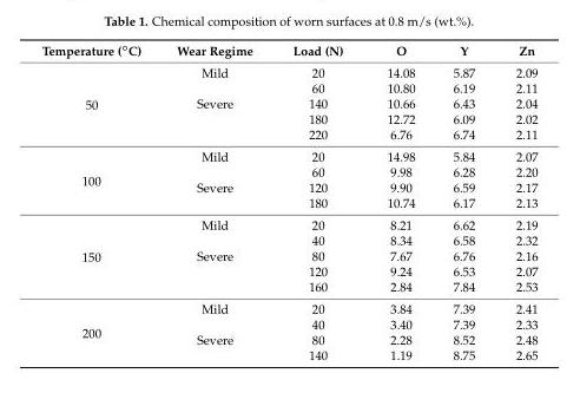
<table><thead><tr><td>Temperature (◦C)</td><td>Wear Regime</td><td>Load (N)</td><td>O</td><td>Y</td><td>Zn</td></tr></thead><tbody><tr><td rowspan="5">50</td><td>Mild</td><td>20</td><td>14.08</td><td>5.87</td><td>2.09</td></tr><tr><td></td><td>60</td><td>10.80</td><td>6.19</td><td>2.11</td></tr><tr><td>Severe</td><td>140</td><td>10.66</td><td>6.43</td><td>2.04</td></tr><tr><td></td><td>180</td><td>12.72</td><td>6.09</td><td>2.02</td></tr><tr><td></td><td>220</td><td>6.76</td><td>6.74</td><td>2.11</td></tr><tr><td rowspan="4">100</td><td>Mild</td><td>20</td><td>14.98</td><td>5.84</td><td>2.07</td></tr><tr><td></td><td>60</td><td>9.98</td><td>6.28</td><td>2.20</td></tr><tr><td>Severe</td><td>120</td><td>9.90</td><td>6.59</td><td>2.17</td></tr><tr><td></td><td>180</td><td>10.74</td><td>6.17</td><td>2.13</td></tr><tr><td rowspan="5">150</td><td>Mild</td><td>20</td><td>8.21</td><td>6.62</td><td>2.19</td></tr><tr><td></td><td>40</td><td>8.34</td><td>6.58</td><td>2.32</td></tr><tr><td>Severe</td><td>80</td><td>7.67</td><td>6.76</td><td>2.16</td></tr><tr><td></td><td>120</td><td>9.24</td><td>6.53</td><td>2.07</td></tr><tr><td></td><td>160</td><td>2.84</td><td>7.84</td><td>2.53</td></tr><tr><td rowspan="4">200</td><td>Mild</td><td>20</td><td>3.84</td><td>7.39</td><td>2.41</td></tr><tr><td></td><td>40</td><td>3.40</td><td>7.39</td><td>2.33</td></tr><tr><td>Severe</td><td>80</td><td>2.28</td><td>8.52</td><td>2.48</td></tr><tr><td></td><td>140</td><td>1.19</td><td>8.75</td><td>2.65</td></tr></tbody></table>